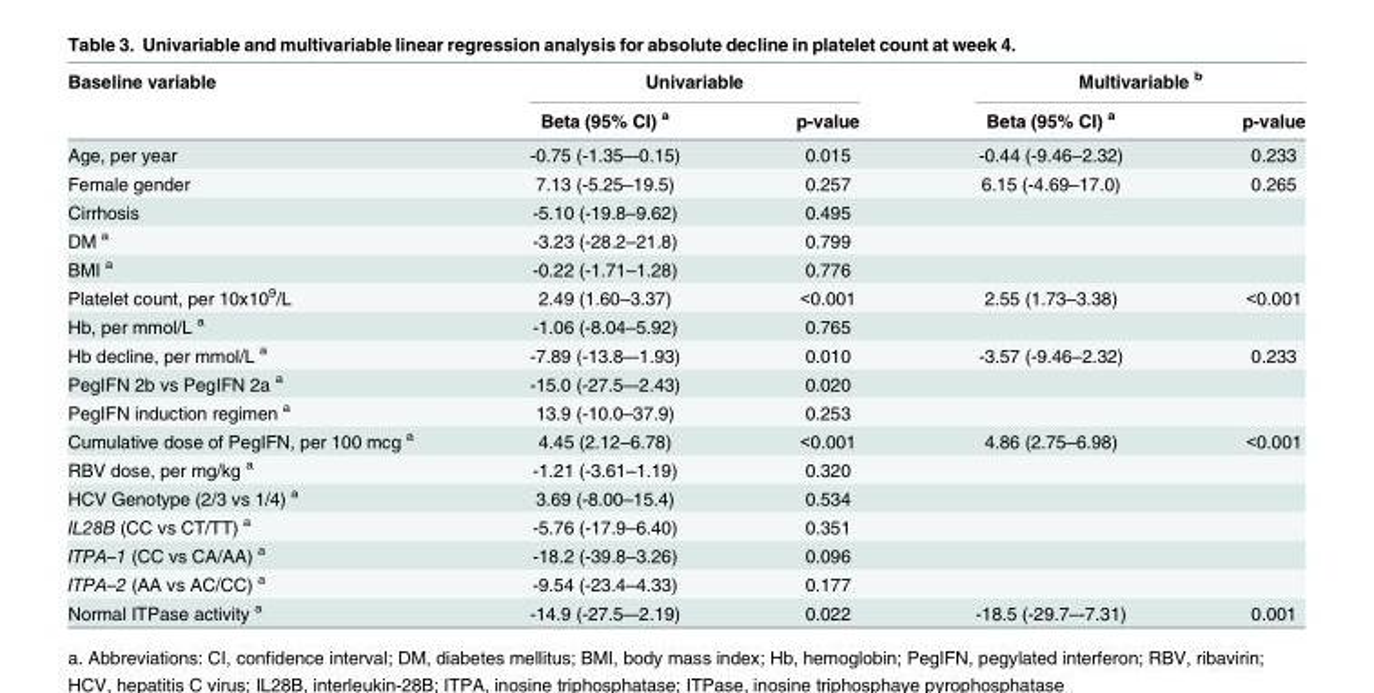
<table><thead><tr><td rowspan="2">Baseline variable</td><td colspan="2">Univariable</td><td colspan="2">Multivariable <sup>b</sup></td></tr><tr><td>Beta (95% CI) <sup>a</sup></td><td>p-value</td><td>Beta (95% CI) <sup>a</sup></td><td>p-value</td></tr></thead><tbody><tr><td>Age, per year</td><td>-0.75 (-1.35–-0.15)</td><td>0.015</td><td>-0.44 (-9.46–2.32)</td><td>0.233</td></tr><tr><td>Female gender</td><td>7.13 (-5.25–19.5)</td><td>0.257</td><td>6.15 (-4.69–17.0)</td><td>0.265</td></tr><tr><td>Cirrhosis</td><td>-5.10 (-19.8–9.62)</td><td>0.495</td><td></td><td></td></tr><tr><td>DM <sup>a</sup></td><td>-3.23 (-28.2–21.8)</td><td>0.799</td><td></td><td></td></tr><tr><td>BMI <sup>a</sup></td><td>-0.22 (-1.71–1.28)</td><td>0.776</td><td></td><td></td></tr><tr><td>Platelet count, per 10x10<sup>9</sup>/L</td><td>2.49 (1.60–3.37)</td><td>&lt;0.001</td><td>2.55 (1.73–3.38)</td><td>&lt;0.001</td></tr><tr><td>Hb, per mmol/L <sup>a</sup></td><td>-1.06 (-8.04–5.92)</td><td>0.765</td><td></td><td></td></tr><tr><td>Hb decline, per mmol/L <sup>a</sup></td><td>-7.89 (-13.8–-1.93)</td><td>0.010</td><td>-3.57 (-9.46–2.32)</td><td>0.233</td></tr><tr><td>PegIFN 2b vs PegIFN 2a <sup>a</sup></td><td>-15.0 (-27.5–-2.43)</td><td>0.020</td><td></td><td></td></tr><tr><td>PegIFN induction regimen <sup>a</sup></td><td>13.9 (-10.0–37.9)</td><td>0.253</td><td></td><td></td></tr><tr><td>Cumulative dose of PegIFN, per 100 mcg <sup>a</sup></td><td>4.45 (2.12–6.78)</td><td>&lt;0.001</td><td>4.86 (2.75–6.98)</td><td>&lt;0.001</td></tr><tr><td>RBV dose, per mg/kg <sup>a</sup></td><td>-1.21 (-3.61–1.19)</td><td>0.320</td><td></td><td></td></tr><tr><td>HCV Genotype (2/3 vs 1/4) <sup>a</sup></td><td>3.69 (-8.00–15.4)</td><td>0.534</td><td></td><td></td></tr><tr><td>IL28B (CC vs CT/TT) <sup>a</sup></td><td>-5.76 (-17.9–6.40)</td><td>0.351</td><td></td><td></td></tr><tr><td>ITPA–1 (CC vs CA/AA) <sup>a</sup></td><td>-18.2 (-39.8–3.26)</td><td>0.096</td><td></td><td></td></tr><tr><td>ITPA–2 (AA vs AC/CC) <sup>a</sup></td><td>-9.54 (-23.4–4.33)</td><td>0.177</td><td></td><td></td></tr><tr><td>Normal ITPase activity <sup>a</sup></td><td>-14.9 (-27.5–-2.19)</td><td>0.022</td><td>-18.5 (-29.7–-7.31)</td><td>0.001</td></tr></tbody></table>